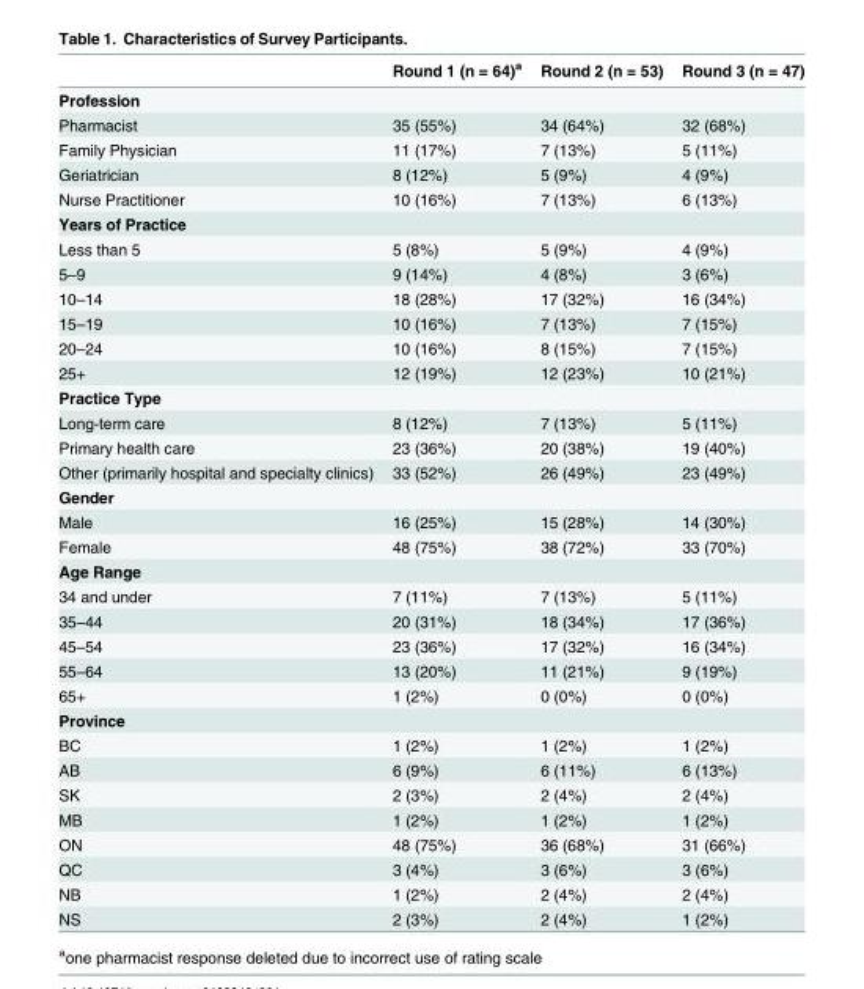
<table><thead><tr><td></td><td>Round 1 (n = 64)<sup>a</sup></td><td>Round 2 (n = 53)</td><td>Round 3 (n = 47)</td></tr></thead><tbody><tr><td colspan="4">Profession</td></tr><tr><td>Pharmacist</td><td>35 (55%)</td><td>34 (64%)</td><td>32 (68%)</td></tr><tr><td>Family Physician</td><td>11 (17%)</td><td>7 (13%)</td><td>5 (11%)</td></tr><tr><td>Geriatrician</td><td>8 (12%)</td><td>5 (9%)</td><td>4 (9%)</td></tr><tr><td>Nurse Practitioner</td><td>10 (16%)</td><td>7 (13%)</td><td>6 (13%)</td></tr><tr><td colspan="4">Years of Practice</td></tr><tr><td>Less than 5</td><td>5 (8%)</td><td>5 (9%)</td><td>4 (9%)</td></tr><tr><td>5–9</td><td>9 (14%)</td><td>4 (8%)</td><td>3 (6%)</td></tr><tr><td>10–14</td><td>18 (28%)</td><td>17 (32%)</td><td>16 (34%)</td></tr><tr><td>15–19</td><td>10 (16%)</td><td>7 (13%)</td><td>7 (15%)</td></tr><tr><td>20–24</td><td>10 (16%)</td><td>8 (15%)</td><td>7 (15%)</td></tr><tr><td>25+</td><td>12 (19%)</td><td>12 (23%)</td><td>10 (21%)</td></tr><tr><td colspan="4">Practice Type</td></tr><tr><td>Long-term care</td><td>8 (12%)</td><td>7 (13%)</td><td>5 (11%)</td></tr><tr><td>Primary health care</td><td>23 (36%)</td><td>20 (38%)</td><td>19 (40%)</td></tr><tr><td>Other (primarily hospital and specialty clinics)</td><td>33 (52%)</td><td>26 (49%)</td><td>23 (49%)</td></tr><tr><td colspan="4">Gender</td></tr><tr><td>Male</td><td>16 (25%)</td><td>15 (28%)</td><td>14 (30%)</td></tr><tr><td>Female</td><td>48 (75%)</td><td>38 (72%)</td><td>33 (70%)</td></tr><tr><td colspan="4">Age Range</td></tr><tr><td>34 and under</td><td>7 (11%)</td><td>7 (13%)</td><td>5 (11%)</td></tr><tr><td>35–44</td><td>20 (31%)</td><td>18 (34%)</td><td>17 (36%)</td></tr><tr><td>45–54</td><td>23 (36%)</td><td>17 (32%)</td><td>16 (34%)</td></tr><tr><td>55–64</td><td>13 (20%)</td><td>11 (21%)</td><td>9 (19%)</td></tr><tr><td>65+</td><td>1 (2%)</td><td>0 (0%)</td><td>0 (0%)</td></tr><tr><td colspan="4">Province</td></tr><tr><td>BC</td><td>1 (2%)</td><td>1 (2%)</td><td>1 (2%)</td></tr><tr><td>AB</td><td>6 (9%)</td><td>6 (11%)</td><td>6 (13%)</td></tr><tr><td>SK</td><td>2 (3%)</td><td>2 (4%)</td><td>2 (4%)</td></tr><tr><td>MB</td><td>1 (2%)</td><td>1 (2%)</td><td>1 (2%)</td></tr><tr><td>ON</td><td>48 (75%)</td><td>36 (68%)</td><td>31 (66%)</td></tr><tr><td>QC</td><td>3 (4%)</td><td>3 (6%)</td><td>3 (6%)</td></tr><tr><td>NB</td><td>1 (2%)</td><td>2 (4%)</td><td>2 (4%)</td></tr><tr><td>NS</td><td>2 (3%)</td><td>2 (4%)</td><td>1 (2%)</td></tr></tbody></table>